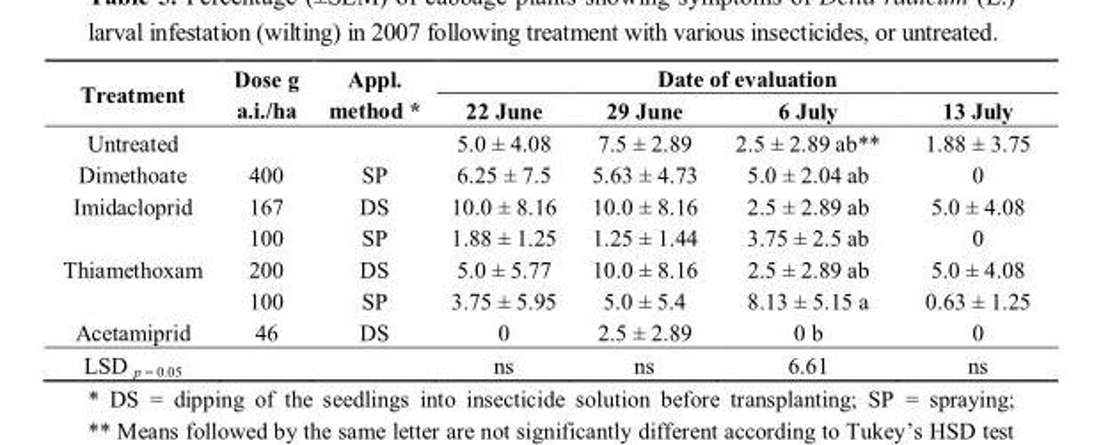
<table><thead><tr><td rowspan="2">Treatment</td><td rowspan="2">Dose g a.i./ha</td><td rowspan="2">Appl. method *</td><td colspan="4">Date of evaluation</td></tr><tr><td>22 June</td><td>29 June</td><td>6 July</td><td>13 July</td></tr></thead><tbody><tr><td>Untreated</td><td></td><td></td><td>5.0 ± 4.08</td><td>7.5 ± 2.89</td><td>2.5 ± 2.89 ab**</td><td>1.88 ± 3.75</td></tr><tr><td>Dimethoate</td><td>400</td><td>SP</td><td>6.25 ± 7.5</td><td>5.63 ± 4.73</td><td>5.0 ± 2.04 ab</td><td>0</td></tr><tr><td rowspan="2">Imidacloprid</td><td>167</td><td>DS</td><td>10.0 ± 8.16</td><td>10.0 ± 8.16</td><td>2.5 ± 2.89 ab</td><td>5.0 ± 4.08</td></tr><tr><td>100</td><td>SP</td><td>1.88 ± 1.25</td><td>1.25 ± 1.44</td><td>3.75 ± 2.5 ab</td><td>0</td></tr><tr><td rowspan="2">Thiamethoxam</td><td>200</td><td>DS</td><td>5.0 ± 5.77</td><td>10.0 ± 8.16</td><td>2.5 ± 2.89 ab</td><td>5.0 ± 4.08</td></tr><tr><td>100</td><td>SP</td><td>3.75 ± 5.95</td><td>5.0 ± 5.4</td><td>8.13 ± 5.15 a</td><td>0.63 ± 1.25</td></tr><tr><td>Acetamiprid</td><td>46</td><td>DS</td><td>0</td><td>2.5 ± 2.89</td><td>0 b</td><td>0</td></tr><tr><td>LSD <sub>p = 0.05</sub></td><td></td><td></td><td>ns</td><td>ns</td><td>6.61</td><td>ns</td></tr></tbody></table>